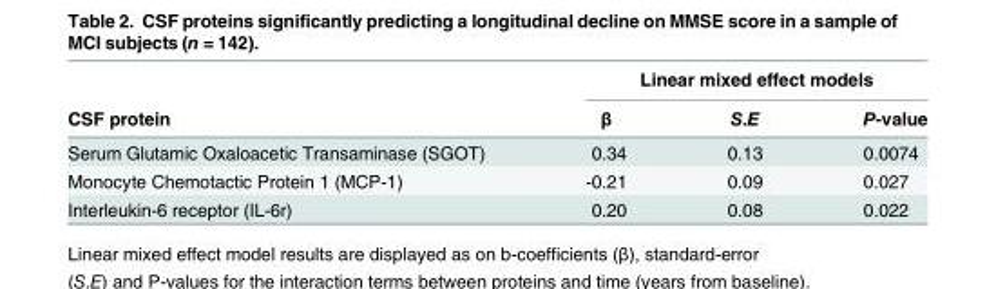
<table><thead><tr><td rowspan="2">CSF protein</td><td colspan="3">Linear mixed effect models</td></tr><tr><td>β</td><td>S.E</td><td>P-value</td></tr></thead><tbody><tr><td>Serum Glutamic Oxaloacetic Transaminase (SGOT)</td><td>0.34</td><td>0.13</td><td>0.0074</td></tr><tr><td>Monocyte Chemotactic Protein 1 (MCP-1)</td><td>-0.21</td><td>0.09</td><td>0.027</td></tr><tr><td>Interleukin-6 receptor (IL-6r)</td><td>0.20</td><td>0.08</td><td>0.022</td></tr></tbody></table>